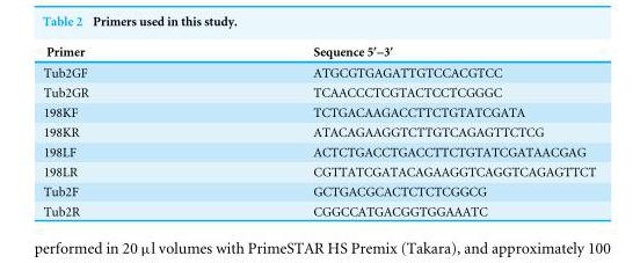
<table><thead><tr><td>Primer</td><td>Sequence 5<sup>′</sup>–3<sup>′</sup></td></tr></thead><tbody><tr><td>Tub2GF</td><td>ATGCGTGAGATTGTCCACGTCC</td></tr><tr><td>Tub2GR</td><td>TCAACCCTCGTACTCCTCGGGC</td></tr><tr><td>198KF</td><td>TCTGACAAGACCTTCTGTATCGATA</td></tr><tr><td>198KR</td><td>ATACAGAAGGTCTTGTCAGAGTTCTCG</td></tr><tr><td>198LF</td><td>ACTCTGACCTGACCTTCTGTATCGATAACGAG</td></tr><tr><td>198LR</td><td>CGTTATCGATACAGAAGGTCAGGTCAGAGTTCT</td></tr><tr><td>Tub2F</td><td>GCTGACGCACTCTCTCGGCG</td></tr><tr><td>Tub2R</td><td>CGGCCATGACGGTGGAAATC</td></tr></tbody></table>